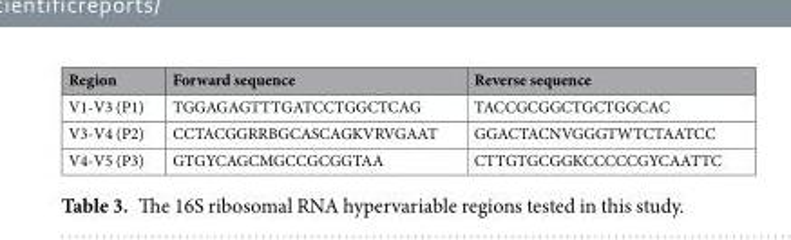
<table><thead><tr><td>Region</td><td>Forward sequence</td><td>Reverse sequence</td></tr></thead><tbody><tr><td>V1-V3 (P1)</td><td>TGGAGAGTTTGATCCTGGCTCAG</td><td>TACCGCGGCTGCTGGCAC</td></tr><tr><td>V3-V4 (P2)</td><td>CCTACGGRRBGCASCAGKVRVGAAT</td><td>GGACTACNVGGGTWTCTAATCC</td></tr><tr><td>V4-V5 (P3)</td><td>GTGYCAGCMGCCGCGGTAA</td><td>CTTGTGCGGKCCCCCGYCAATTC</td></tr></tbody></table>